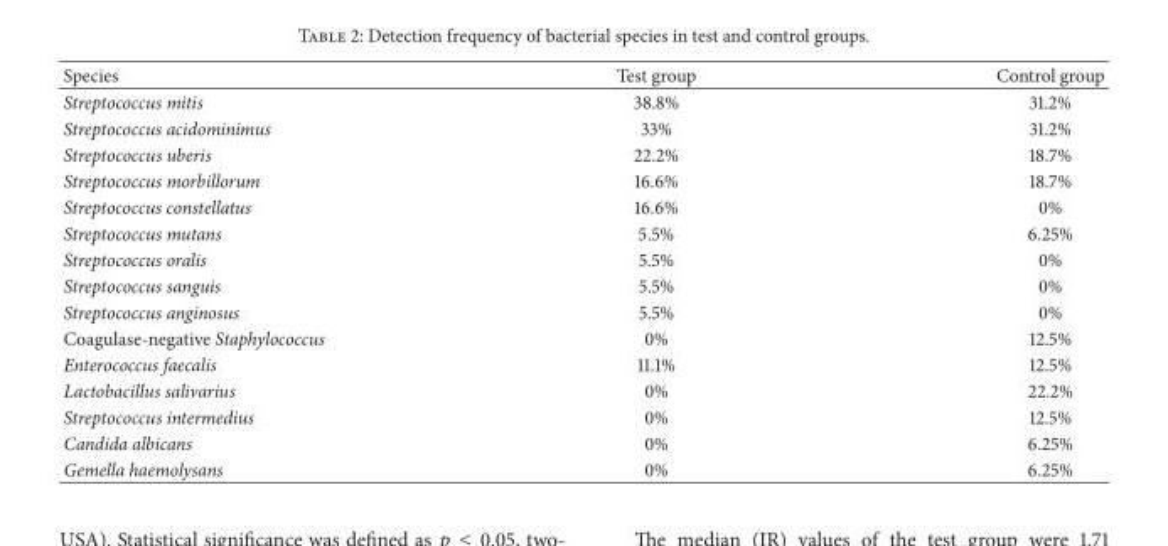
<table><thead><tr><td>Species</td><td>Test group</td><td>Control group</td></tr></thead><tbody><tr><td>Streptococcus mitis</td><td>38.8%</td><td>31.2%</td></tr><tr><td>Streptococcus acidominimus</td><td>33%</td><td>31.2%</td></tr><tr><td>Streptococcus uberis</td><td>22.2%</td><td>18.7%</td></tr><tr><td>Streptococcus morbillorum</td><td>16.6%</td><td>18.7%</td></tr><tr><td>Streptococcus constellatus</td><td>16.6%</td><td>0%</td></tr><tr><td>Streptococcus mutans</td><td>5.5%</td><td>6.25%</td></tr><tr><td>Streptococcus oralis</td><td>5.5%</td><td>0%</td></tr><tr><td>Streptococcus sanguis</td><td>5.5%</td><td>0%</td></tr><tr><td>Streptococcus anginosus</td><td>5.5%</td><td>0%</td></tr><tr><td>Coagulase-negative Staphylococcus</td><td>0%</td><td>12.5%</td></tr><tr><td>Enterococcus faecalis</td><td>11.1%</td><td>12.5%</td></tr><tr><td>Lactobacillus salivarius</td><td>0%</td><td>22.2%</td></tr><tr><td>Streptococcus intermedius</td><td>0%</td><td>12.5%</td></tr><tr><td>Candida albicans</td><td>0%</td><td>6.25%</td></tr><tr><td>Gemella haemolysans</td><td>0%</td><td>6.25%</td></tr></tbody></table>